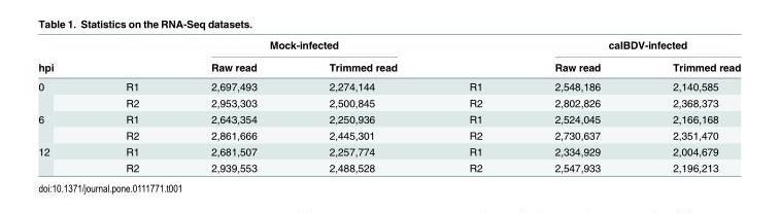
<table><thead><tr><td rowspan="2">hpi</td><td rowspan="2"></td><td colspan="2">Mock-infected</td><td rowspan="2"></td><td colspan="2">caIBDV-infected</td></tr><tr><td>Raw read</td><td>Trimmed read</td><td>Raw read</td><td>Trimmed read</td></tr></thead><tbody><tr><td rowspan="2">0</td><td>R1</td><td>2,697,493</td><td>2,274,144</td><td>R1</td><td>2,548,186</td><td>2,140,585</td></tr><tr><td>R2</td><td>2,953,303</td><td>2,500,845</td><td>R2</td><td>2,802,826</td><td>2,368,373</td></tr><tr><td rowspan="2">6</td><td>R1</td><td>2,643,354</td><td>2,250,936</td><td>R1</td><td>2,524,045</td><td>2,166,168</td></tr><tr><td>R2</td><td>2,861,666</td><td>2,445,301</td><td>R2</td><td>2,730,637</td><td>2,351,470</td></tr><tr><td rowspan="2">12</td><td>R1</td><td>2,681,507</td><td>2,257,774</td><td>R1</td><td>2,334,929</td><td>2,004,679</td></tr><tr><td>R2</td><td>2,939,553</td><td>2,488,528</td><td>R2</td><td>2,547,933</td><td>2,196,213</td></tr></tbody></table>